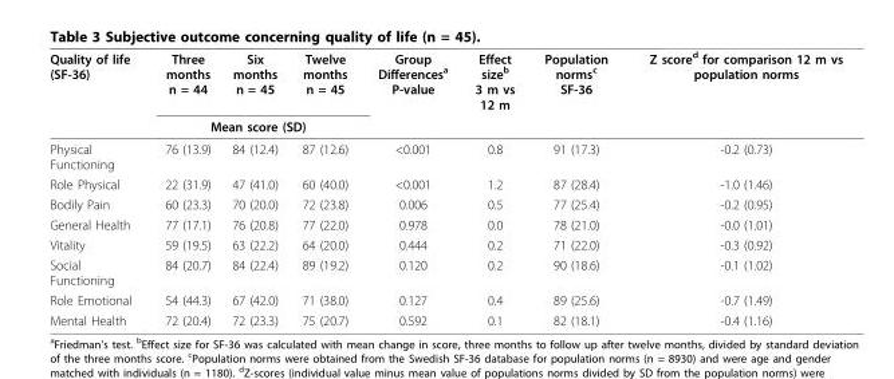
<table><thead><tr><td rowspan="2">Quality of life (SF-36)</td><td>Three months n = 44</td><td>Six months n = 45</td><td>Twelve months n = 45</td><td rowspan="2">Group Differences<sup>a</sup> P-value</td><td rowspan="2">Effect size<sup>b</sup> 3 m vs 12 m</td><td rowspan="2">Population norms<sup>c</sup> SF-36</td><td rowspan="2">Z score<sup>d</sup> for comparison 12 m vs population norms</td></tr><tr><td colspan="3">Mean score (SD)</td></tr></thead><tbody><tr><td>Physical Functioning</td><td>76 (13.9)</td><td>84 (12.4)</td><td>87 (12.6)</td><td>&lt;0.001</td><td>0.8</td><td>91 (17.3)</td><td>-0.2 (0.73)</td></tr><tr><td>Role Physical</td><td>22 (31.9)</td><td>47 (41.0)</td><td>60 (40.0)</td><td>&lt;0.001</td><td>1.2</td><td>87 (28.4)</td><td>-1.0 (1.46)</td></tr><tr><td>Bodily Pain</td><td>60 (23.3)</td><td>70 (20.0)</td><td>72 (23.8)</td><td>0.006</td><td>0.5</td><td>77 (25.4)</td><td>-0.2 (0.95)</td></tr><tr><td>General Health</td><td>77 (17.1)</td><td>76 (20.8)</td><td>77 (22.0)</td><td>0.978</td><td>0.0</td><td>78 (21.0)</td><td>-0.0 (1.01)</td></tr><tr><td>Vitality</td><td>59 (19.5)</td><td>63 (22.2)</td><td>64 (20.0)</td><td>0.444</td><td>0.2</td><td>71 (22.0)</td><td>-0.3 (0.92)</td></tr><tr><td>Social Functioning</td><td>84 (20.7)</td><td>84 (22.4)</td><td>89 (19.2)</td><td>0.120</td><td>0.2</td><td>90 (18.6)</td><td>-0.1 (1.02)</td></tr><tr><td>Role Emotional</td><td>54 (44.3)</td><td>67 (42.0)</td><td>71 (38.0)</td><td>0.127</td><td>0.4</td><td>89 (25.6)</td><td>-0.7 (1.49)</td></tr><tr><td>Mental Health</td><td>72 (20.4)</td><td>72 (23.3)</td><td>75 (20.7)</td><td>0.592</td><td>0.1</td><td>82 (18.1)</td><td>-0.4 (1.16)</td></tr></tbody></table>